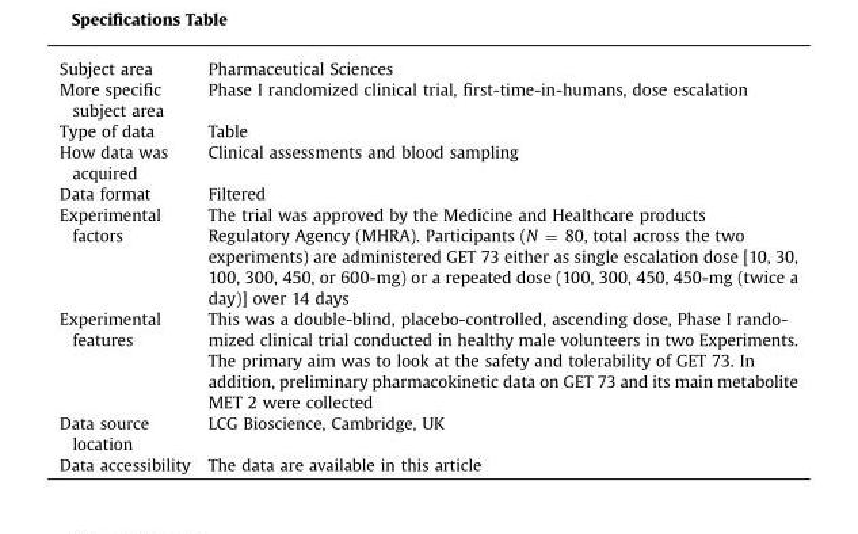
<table><tbody><tr><td>Subject area</td><td>Pharmaceutical Sciences</td></tr><tr><td>More specific subject area</td><td>Phase I randomized clinical trial, first-time-in-humans, dose escalation</td></tr><tr><td>Type of data</td><td>Table</td></tr><tr><td>How data was acquired</td><td>Clinical assessments and blood sampling</td></tr><tr><td>Data format</td><td>Filtered</td></tr><tr><td rowspan="2">Experimental factors</td><td>The trial was approved by the Medicine and Healthcare products</td></tr><tr><td>Regulatory Agency (MHRA). Participants (N = 80, total across the two experiments) are administered GET 73 either as single escalation dose [10, 30, 100, 300, 450, or 600-mg) or a repeated dose (100, 300, 450, 450-mg (twice a day)] over 14 days</td></tr><tr><td>Experimental features</td><td>This was a double-blind, placebo-controlled, ascending dose, Phase I rando- mized clinical trial conducted in healthy male volunteers in two Experiments. The primary aim was to look at the safety and tolerability of GET 73. In addition, preliminary pharmacokinetic data on GET 73 and its main metabolite MET 2 were collected</td></tr><tr><td>Data source location</td><td>LCG Bioscience, Cambridge, UK</td></tr><tr><td>Data accessibility</td><td>The data are available in this article</td></tr></tbody></table>